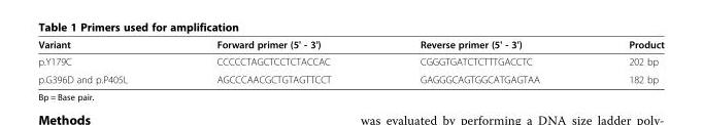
<table><thead><tr><td>Variant</td><td>Forward primer (5&#x27; - 3&#x27;)</td><td>Reverse primer (5&#x27; - 3&#x27;)</td><td>Product</td></tr></thead><tbody><tr><td>p.Y179C</td><td>CCCCCTAGCTCCTCTACCAC</td><td>CGGGTGATCTCTTTGACCTC</td><td>202 bp</td></tr><tr><td>p.G396D and p.P405L</td><td>AGCCCAACGCTGTAGTTCCT</td><td>GAGGGCAGTGGCATGAGTAA</td><td>182 bp</td></tr></tbody></table>